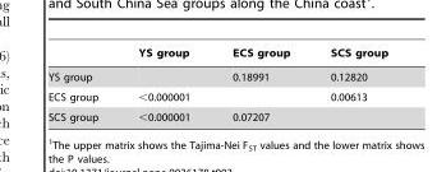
<table><thead><tr><td></td><td>YS group</td><td>ECS group</td><td>SCS group</td></tr></thead><tbody><tr><td>YS group</td><td></td><td>0.18991</td><td>0.12820</td></tr><tr><td>ECS group</td><td>&lt;0.000001</td><td></td><td>0.00613</td></tr><tr><td>SCS group</td><td>&lt;0.000001</td><td>0.07207</td><td></td></tr></tbody></table>